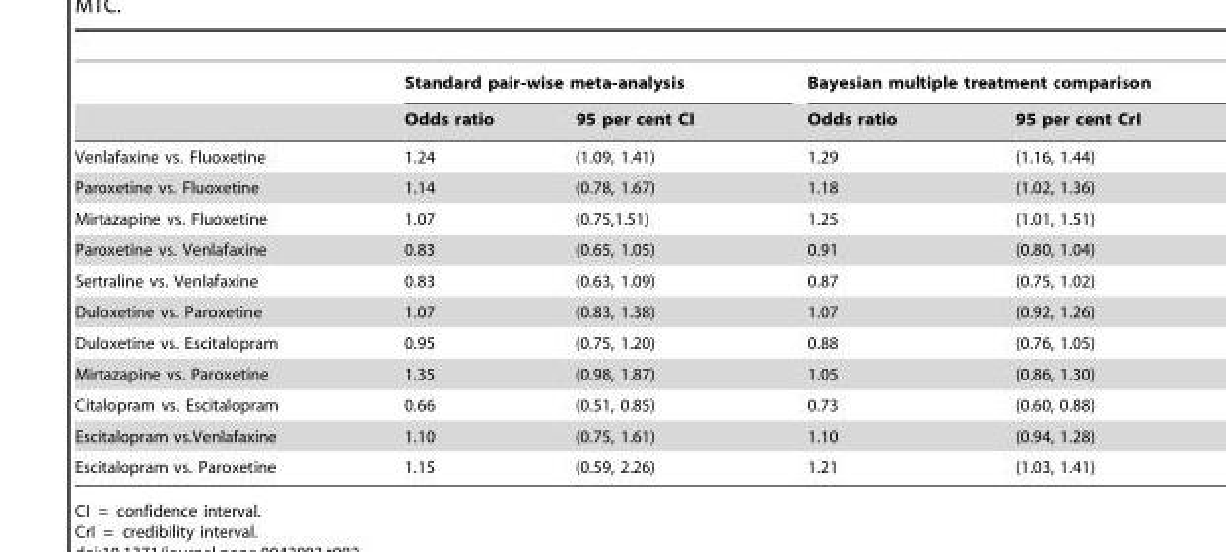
<table><thead><tr><td rowspan="2"></td><td colspan="2">Standard pair-wise meta-analysis</td><td colspan="2">Bayesian multiple treatment comparison</td></tr><tr><td>Odds ratio</td><td>95 per cent CI</td><td>Odds ratio</td><td>95 per cent CrI</td></tr></thead><tbody><tr><td>Venlafaxine vs. Fluoxetine</td><td>1.24</td><td>(1.09, 1.41)</td><td>1.29</td><td>(1.16, 1.44)</td></tr><tr><td>Paroxetine vs. Fluoxetine</td><td>1.14</td><td>(0.78, 1.67)</td><td>1.18</td><td>(1.02, 1.36)</td></tr><tr><td>Mirtazapine vs. Fluoxetine</td><td>1.07</td><td>(0.75,1.51)</td><td>1.25</td><td>(1.01, 1.51)</td></tr><tr><td>Paroxetine vs. Venlafaxine</td><td>0.83</td><td>(0.65, 1.05)</td><td>0.91</td><td>(0.80, 1.04)</td></tr><tr><td>Sertraline vs. Venlafaxine</td><td>0.83</td><td>(0.63, 1.09)</td><td>0.87</td><td>(0.75, 1.02)</td></tr><tr><td>Duloxetine vs. Paroxetine</td><td>1.07</td><td>(0.83, 1.38)</td><td>1.07</td><td>(0.92, 1.26)</td></tr><tr><td>Duloxetine vs. Escitalopram</td><td>0.95</td><td>(0.75, 1.20)</td><td>0.88</td><td>(0.76, 1.05)</td></tr><tr><td>Mirtazapine vs. Paroxetine</td><td>1.35</td><td>(0.98, 1.87)</td><td>1.05</td><td>(0.86, 1.30)</td></tr><tr><td>Citalopram vs. Escitalopram</td><td>0.66</td><td>(0.51, 0.85)</td><td>0.73</td><td>(0.60, 0.88)</td></tr><tr><td>Escitalopram vs.Venlafaxine</td><td>1.10</td><td>(0.75, 1.61)</td><td>1.10</td><td>(0.94, 1.28)</td></tr><tr><td>Escitalopram vs. Paroxetine</td><td>1.15</td><td>(0.59, 2.26)</td><td>1.21</td><td>(1.03, 1.41)</td></tr></tbody></table>